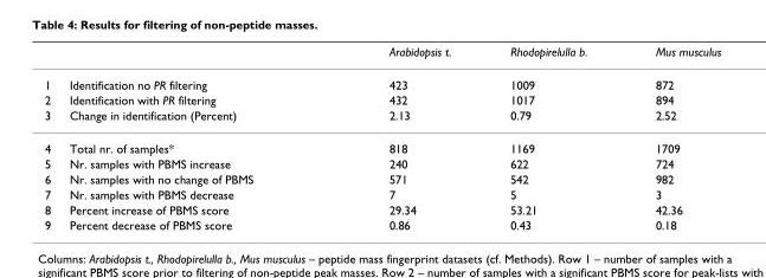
<table><thead><tr><td></td><td></td><td>Arabidopsis t.</td><td>Rhodopirelulla b.</td><td>Mus musculus</td></tr></thead><tbody><tr><td>1</td><td>Identification no PR filtering</td><td>423</td><td>1009</td><td>872</td></tr><tr><td>2</td><td>Identification with PR filtering</td><td>432</td><td>1017</td><td>894</td></tr><tr><td>3</td><td>Change in identification (Percent)</td><td>2.13</td><td>0.79</td><td>2.52</td></tr><tr><td>4</td><td>Total nr. of samples*</td><td>818</td><td>1169</td><td>1709</td></tr><tr><td>5</td><td>Nr. samples with PBMS increase</td><td>240</td><td>622</td><td>724</td></tr><tr><td>6</td><td>Nr. samples with no change of PBMS</td><td>571</td><td>542</td><td>982</td></tr><tr><td>7</td><td>Nr. samples with PBMS decrease</td><td>7</td><td>5</td><td>3</td></tr><tr><td>8</td><td>Percent increase of PBMS score</td><td>29.34</td><td>53.21</td><td>42.36</td></tr><tr><td>9</td><td>Percent decrease of PBMS score</td><td>0.86</td><td>0.43</td><td>0.18</td></tr></tbody></table>